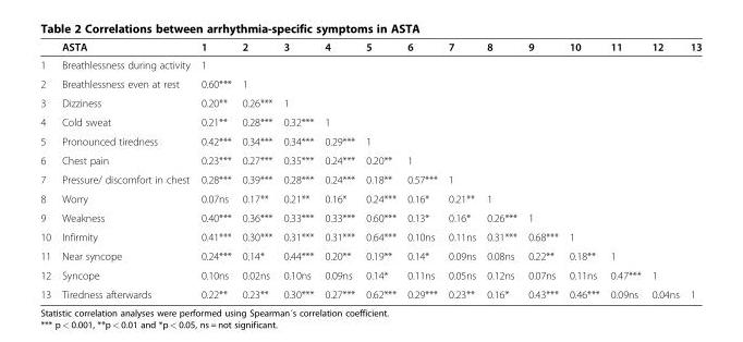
<table><thead><tr><td></td><td>ASTA</td><td>1</td><td>2</td><td>3</td><td>4</td><td>5</td><td>6</td><td>7</td><td>8</td><td>9</td><td>10</td><td>11</td><td>12</td><td>13</td></tr></thead><tbody><tr><td>1</td><td>Breathlessness during activity</td><td>1</td><td></td><td></td><td></td><td></td><td></td><td></td><td></td><td></td><td></td><td></td><td></td><td></td></tr><tr><td>2</td><td>Breathlessness even at rest</td><td>0.60***</td><td>1</td><td></td><td></td><td></td><td></td><td></td><td></td><td></td><td></td><td></td><td></td><td></td></tr><tr><td>3</td><td>Dizziness</td><td>0.20**</td><td>0.26***</td><td>1</td><td></td><td></td><td></td><td></td><td></td><td></td><td></td><td></td><td></td><td></td></tr><tr><td>4</td><td>Cold sweat</td><td>0.21**</td><td>0.28***</td><td>0.32***</td><td>1</td><td></td><td></td><td></td><td></td><td></td><td></td><td></td><td></td><td></td></tr><tr><td>5</td><td>Pronounced tiredness</td><td>0.42***</td><td>0.34***</td><td>0.34***</td><td>0.29***</td><td>1</td><td></td><td></td><td></td><td></td><td></td><td></td><td></td><td></td></tr><tr><td>6</td><td>Chest pain</td><td>0.23***</td><td>0.27***</td><td>0.35***</td><td>0.24***</td><td>0.20**</td><td>1</td><td></td><td></td><td></td><td></td><td></td><td></td><td></td></tr><tr><td>7</td><td>Pressure/ discomfort in chest</td><td>0.28***</td><td>0.39***</td><td>0.28***</td><td>0.24***</td><td>0.18**</td><td>0.57***</td><td>1</td><td></td><td></td><td></td><td></td><td></td><td></td></tr><tr><td>8</td><td>Worry</td><td>0.07ns</td><td>0.17**</td><td>0.21**</td><td>0.16*</td><td>0.24***</td><td>0.16*</td><td>0.21**</td><td>1</td><td></td><td></td><td></td><td></td><td></td></tr><tr><td>9</td><td>Weakness</td><td>0.40***</td><td>0.36***</td><td>0.33***</td><td>0.33***</td><td>0.60***</td><td>0.13*</td><td>0.16*</td><td>0.26***</td><td>1</td><td></td><td></td><td></td><td></td></tr><tr><td>10</td><td>Infirmity</td><td>0.41***</td><td>0.30***</td><td>0.31***</td><td>0.31***</td><td>0.64***</td><td>0.10ns</td><td>0.11ns</td><td>0.31***</td><td>0.68***</td><td>1</td><td></td><td></td><td></td></tr><tr><td>11</td><td>Near syncope</td><td>0.24***</td><td>0.14*</td><td>0.44***</td><td>0.20**</td><td>0.19**</td><td>0.14*</td><td>0.09ns</td><td>0.08ns</td><td>0.22**</td><td>0.18**</td><td>1</td><td></td><td></td></tr><tr><td>12</td><td>Syncope</td><td>0.10ns</td><td>0.02ns</td><td>0.10ns</td><td>0.09ns</td><td>0.14*</td><td>0.11ns</td><td>0.05ns</td><td>0.12ns</td><td>0.07ns</td><td>0.11ns</td><td>0.47***</td><td>1</td><td></td></tr><tr><td>13</td><td>Tiredness afterwards</td><td>0.22**</td><td>0.23**</td><td>0.30***</td><td>0.27***</td><td>0.62***</td><td>0.29***</td><td>0.23**</td><td>0.16*</td><td>0.43***</td><td>0.46***</td><td>0.09ns</td><td>0.04ns</td><td>1</td></tr></tbody></table>